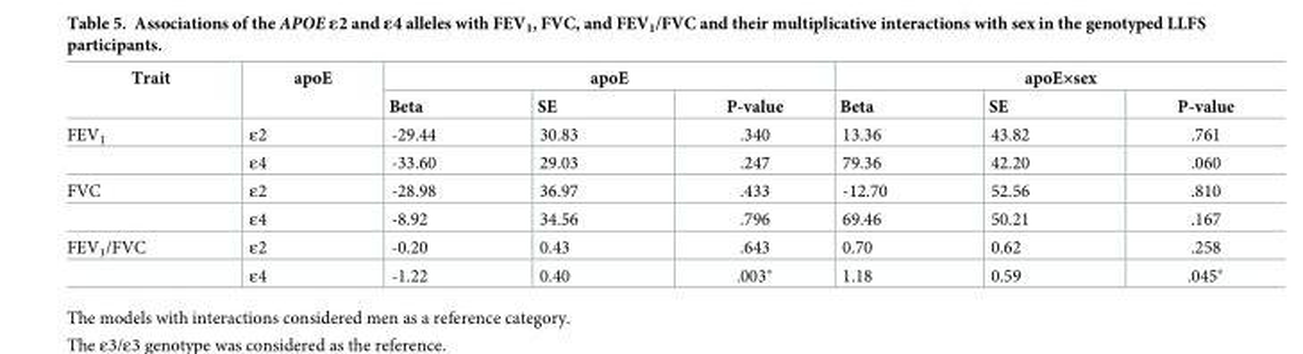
<table><thead><tr><td rowspan="2">Trait</td><td rowspan="2">apoE</td><td colspan="3">apoE</td><td colspan="3">apoE×sex</td></tr><tr><td>Beta</td><td>SE</td><td>P-value</td><td>Beta</td><td>SE</td><td>P-value</td></tr></thead><tbody><tr><td rowspan="2">FEV<sub>1</sub></td><td>ε2</td><td>-29.44</td><td>30.83</td><td>.340</td><td>13.36</td><td>43.82</td><td>.761</td></tr><tr><td>ε4</td><td>-33.60</td><td>29.03</td><td>.247</td><td>79.36</td><td>42.20</td><td>.060</td></tr><tr><td rowspan="2">FVC</td><td>ε2</td><td>-28.98</td><td>36.97</td><td>.433</td><td>-12.70</td><td>52.56</td><td>.810</td></tr><tr><td>ε4</td><td>-8.92</td><td>34.56</td><td>.796</td><td>69.46</td><td>50.21</td><td>.167</td></tr><tr><td rowspan="2">FEV<sub>1</sub>/FVC</td><td>ε2</td><td>-0.20</td><td>0.43</td><td>.643</td><td>0.70</td><td>0.62</td><td>.258</td></tr><tr><td>ε4</td><td>-1.22</td><td>0.40</td><td>.003*</td><td>1.18</td><td>0.59</td><td>.045*</td></tr></tbody></table>